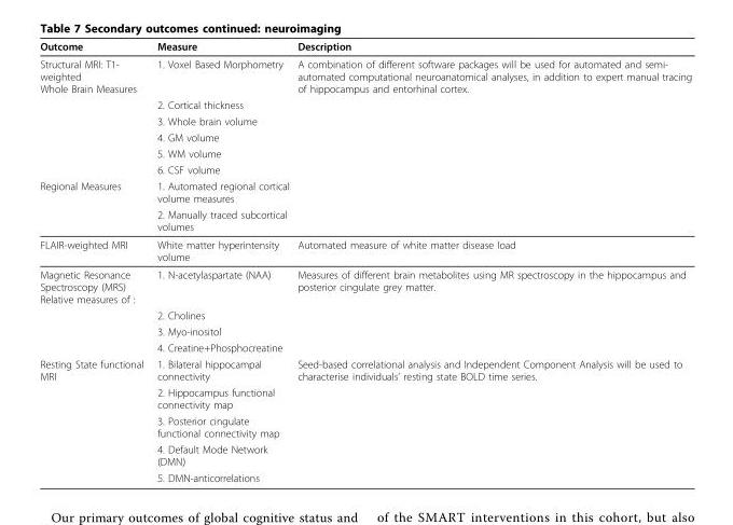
<table><thead><tr><td>Outcome</td><td>Measure</td><td>Description</td></tr></thead><tbody><tr><td rowspan="6">Structural MRI: T1- weighted Whole Brain Measures</td><td>1. Voxel Based Morphometry</td><td>A combination of different software packages will be used for automated and semi- automated computational neuroanatomical analyses, in addition to expert manual tracing of hippocampus and entorhinal cortex.</td></tr><tr><td>2. Cortical thickness</td><td></td></tr><tr><td>3. Whole brain volume</td><td></td></tr><tr><td>4. GM volume</td><td></td></tr><tr><td>5. WM volume</td><td></td></tr><tr><td>6. CSF volume</td><td></td></tr><tr><td rowspan="2">Regional Measures</td><td>1. Automated regional cortical volume measures</td><td></td></tr><tr><td>2. Manually traced subcortical volumes</td><td></td></tr><tr><td>FLAIR-weighted MRI</td><td>White matter hyperintensity volume</td><td>Automated measure of white matter disease load</td></tr><tr><td rowspan="4">Magnetic Resonance Spectroscopy (MRS) Relative measures of :</td><td>1. N-acetylaspartate (NAA)</td><td>Measures of different brain metabolites using MR spectroscopy in the hippocampus and posterior cingulate grey matter.</td></tr><tr><td>2. Cholines</td><td></td></tr><tr><td>3. Myo-inositol</td><td></td></tr><tr><td>4. Creatine+Phosphocreatine</td><td></td></tr><tr><td rowspan="5">Resting State functional MRI</td><td>1. Bilateral hippocampal connectivity</td><td>Seed-based correlational analysis and Independent Component Analysis will be used to characterise individuals’ resting state BOLD time series.</td></tr><tr><td>2. Hippocampus functional connectivity map</td><td></td></tr><tr><td>3. Posterior cingulate functional connectivity map</td><td></td></tr><tr><td>4. Default Mode Network (DMN)</td><td></td></tr><tr><td>5. DMN-anticorrelations</td><td></td></tr></tbody></table>